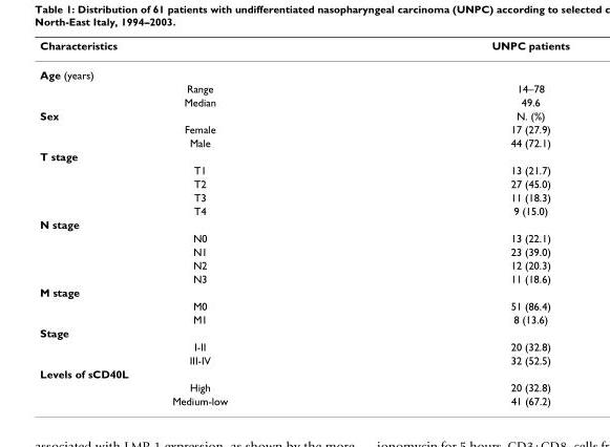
<table><thead><tr><td>Characteristics</td><td>UNPC patients</td></tr></thead><tbody><tr><td colspan="2">Age (years)</td></tr><tr><td>Range</td><td>14–78</td></tr><tr><td>Median</td><td>49.6</td></tr><tr><td>Sex</td><td>N. (%)</td></tr><tr><td>Female</td><td>17 (27.9)</td></tr><tr><td>Male</td><td>44 (72.1)</td></tr><tr><td colspan="2">T stage</td></tr><tr><td>T1</td><td>13 (21.7)</td></tr><tr><td>T2</td><td>27 (45.0)</td></tr><tr><td>T3</td><td>11 (18.3)</td></tr><tr><td>T4</td><td>9 (15.0)</td></tr><tr><td colspan="2">N stage</td></tr><tr><td>N0</td><td>13 (22.1)</td></tr><tr><td>N1</td><td>23 (39.0)</td></tr><tr><td>N2</td><td>12 (20.3)</td></tr><tr><td>N3</td><td>11 (18.6)</td></tr><tr><td colspan="2">M stage</td></tr><tr><td>M0</td><td>51 (86.4)</td></tr><tr><td>M1</td><td>8 (13.6)</td></tr><tr><td colspan="2">Stage</td></tr><tr><td>I-II</td><td>20 (32.8)</td></tr><tr><td>III-IV</td><td>32 (52.5)</td></tr><tr><td colspan="2">Levels of sCD40L</td></tr><tr><td>High</td><td>20 (32.8)</td></tr><tr><td>Medium-low</td><td>41 (67.2)</td></tr></tbody></table>